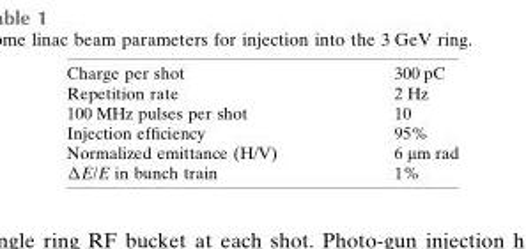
<table><tbody><tr><td>Charge per shot</td><td>300 pC</td></tr><tr><td>Repetition rate</td><td>2 Hz</td></tr><tr><td>100 MHz pulses per shot</td><td>10</td></tr><tr><td>Injection efficiency</td><td>95%</td></tr><tr><td>Normalized emittance (H/V)</td><td>6 µm rad</td></tr><tr><td>ΔE/E in bunch train</td><td>1%</td></tr></tbody></table>